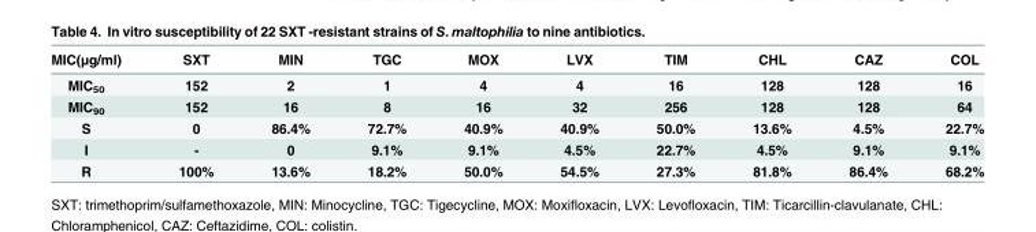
<table><thead><tr><td>MIC(μg/ml)</td><td>SXT</td><td>MIN</td><td>TGC</td><td>MOX</td><td>LVX</td><td>TIM</td><td>CHL</td><td>CAZ</td><td>COL</td></tr></thead><tbody><tr><td>MIC<sub>50</sub></td><td>152</td><td>2</td><td>1</td><td>4</td><td>4</td><td>16</td><td>128</td><td>128</td><td>16</td></tr><tr><td>MIC<sub>90</sub></td><td>152</td><td>16</td><td>8</td><td>16</td><td>32</td><td>256</td><td>128</td><td>128</td><td>64</td></tr><tr><td>S</td><td>0</td><td>86.4%</td><td>72.7%</td><td>40.9%</td><td>40.9%</td><td>50.0%</td><td>13.6%</td><td>4.5%</td><td>22.7%</td></tr><tr><td>I</td><td>-</td><td>0</td><td>9.1%</td><td>9.1%</td><td>4.5%</td><td>22.7%</td><td>4.5%</td><td>9.1%</td><td>9.1%</td></tr><tr><td>R</td><td>100%</td><td>13.6%</td><td>18.2%</td><td>50.0%</td><td>54.5%</td><td>27.3%</td><td>81.8%</td><td>86.4%</td><td>68.2%</td></tr></tbody></table>